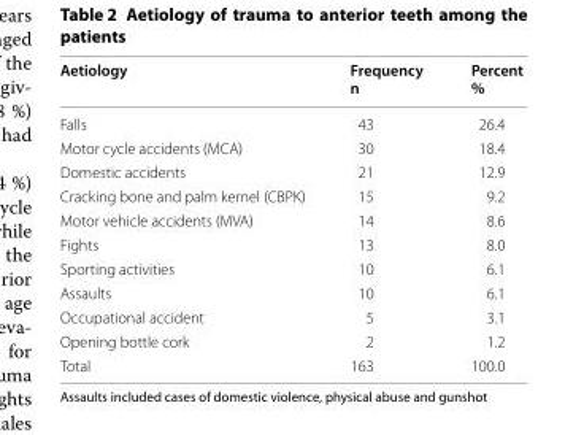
<table><thead><tr><td>Aetiology</td><td>Frequency n</td><td>Percent %</td></tr></thead><tbody><tr><td>Falls</td><td>43</td><td>26.4</td></tr><tr><td>Motor cycle accidents (MCA)</td><td>30</td><td>18.4</td></tr><tr><td>Domestic accidents</td><td>21</td><td>12.9</td></tr><tr><td>Cracking bone and palm kernel (CBPK)</td><td>15</td><td>9.2</td></tr><tr><td>Motor vehicle accidents (MVA)</td><td>14</td><td>8.6</td></tr><tr><td>Fights</td><td>13</td><td>8.0</td></tr><tr><td>Sporting activities</td><td>10</td><td>6.1</td></tr><tr><td>Assaults</td><td>10</td><td>6.1</td></tr><tr><td>Occupational accident</td><td>5</td><td>3.1</td></tr><tr><td>Opening bottle cork</td><td>2</td><td>1.2</td></tr><tr><td>Total</td><td>163</td><td>100.0</td></tr></tbody></table>